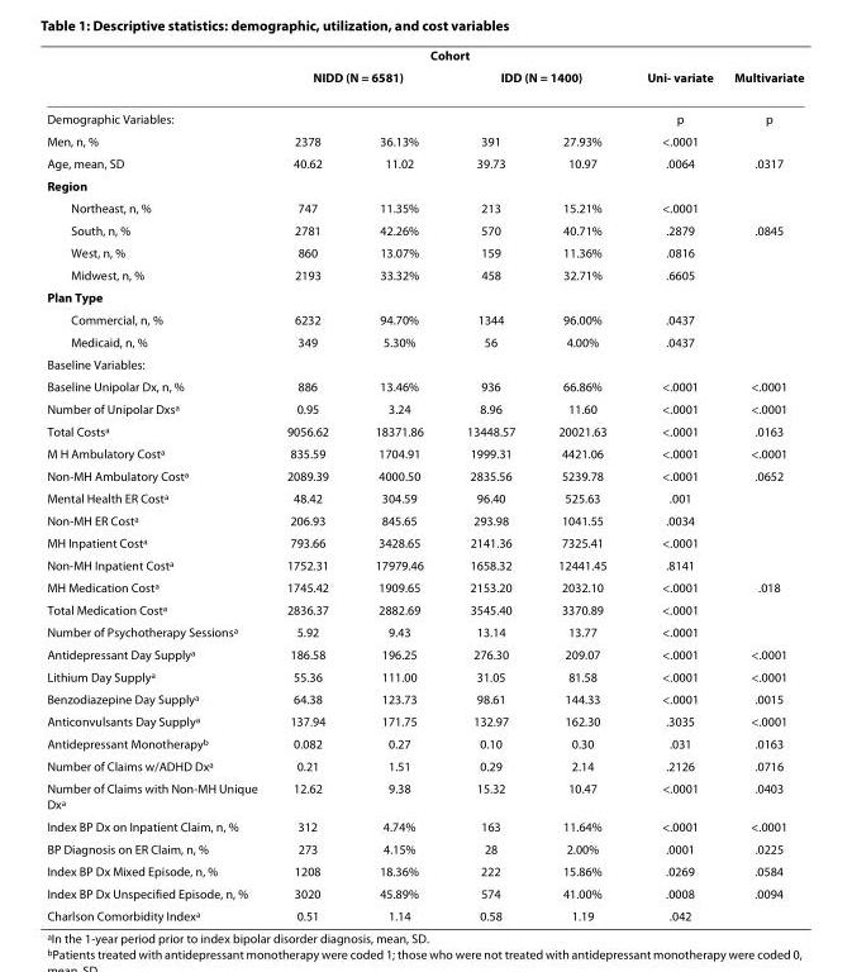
<table><thead><tr><td rowspan="3">Demographic Variables:</td><td colspan="4">Cohort</td><td rowspan="3">Uni- variate p</td><td rowspan="3">Multivariate p</td></tr><tr><td colspan="2">NIDD (N = 6581)</td><td colspan="2">IDD (N = 1400)</td></tr><tr><td></td><td></td><td></td><td></td></tr></thead><tbody><tr><td>Men, n, %</td><td>2378</td><td>36.13%</td><td>391</td><td>27.93%</td><td>&lt;.0001</td><td></td></tr><tr><td>Age, mean, SD</td><td>40.62</td><td>11.02</td><td>39.73</td><td>10.97</td><td>.0064</td><td>.0317</td></tr><tr><td colspan="7">Region</td></tr><tr><td>Northeast, n, %</td><td>747</td><td>11.35%</td><td>213</td><td>15.21%</td><td>&lt;.0001</td><td></td></tr><tr><td>South, n, %</td><td>2781</td><td>42.26%</td><td>570</td><td>40.71%</td><td>.2879</td><td>.0845</td></tr><tr><td>West, n, %</td><td>860</td><td>13.07%</td><td>159</td><td>11.36%</td><td>.0816</td><td></td></tr><tr><td>Midwest, n, %</td><td>2193</td><td>33.32%</td><td>458</td><td>32.71%</td><td>.6605</td><td></td></tr><tr><td colspan="7">Plan Type</td></tr><tr><td>Commercial, n, %</td><td>6232</td><td>94.70%</td><td>1344</td><td>96.00%</td><td>.0437</td><td></td></tr><tr><td>Medicaid, n, %</td><td>349</td><td>5.30%</td><td>56</td><td>4.00%</td><td>.0437</td><td></td></tr><tr><td colspan="7">Baseline Variables:</td></tr><tr><td>Baseline Unipolar Dx, n, %</td><td>886</td><td>13.46%</td><td>936</td><td>66.86%</td><td>&lt;.0001</td><td>&lt;.0001</td></tr><tr><td>Number of Unipolar Dxs<sup>a</sup></td><td>0.95</td><td>3.24</td><td>8.96</td><td>11.60</td><td>&lt;.0001</td><td>&lt;.0001</td></tr><tr><td>Total Costs<sup>a</sup></td><td>9056.62</td><td>18371.86</td><td>13448.57</td><td>20021.63</td><td>&lt;.0001</td><td>.0163</td></tr><tr><td>M H Ambulatory Cost<sup>a</sup></td><td>835.59</td><td>1704.91</td><td>1999.31</td><td>4421.06</td><td>&lt;.0001</td><td>&lt;.0001</td></tr><tr><td>Non-MH Ambulatory Cost<sup>a</sup></td><td>2089.39</td><td>4000.50</td><td>2835.56</td><td>5239.78</td><td>&lt;.0001</td><td>.0652</td></tr><tr><td>Mental Health ER Cost<sup>a</sup></td><td>48.42</td><td>304.59</td><td>96.40</td><td>525.63</td><td>.001</td><td></td></tr><tr><td>Non-MH ER Cost<sup>a</sup></td><td>206.93</td><td>845.65</td><td>293.98</td><td>1041.55</td><td>.0034</td><td></td></tr><tr><td>MH Inpatient Cost<sup>a</sup></td><td>793.66</td><td>3428.65</td><td>2141.36</td><td>7325.41</td><td>&lt;.0001</td><td></td></tr><tr><td>Non-MH Inpatient Cost<sup>a</sup></td><td>1752.31</td><td>17979.46</td><td>1658.32</td><td>12441.45</td><td>.8141</td><td></td></tr><tr><td>MH Medication Cost<sup>a</sup></td><td>1745.42</td><td>1909.65</td><td>2153.20</td><td>2032.10</td><td>&lt;.0001</td><td>.018</td></tr><tr><td>Total Medication Cost<sup>a</sup></td><td>2836.37</td><td>2882.69</td><td>3545.40</td><td>3370.89</td><td>&lt;.0001</td><td></td></tr><tr><td>Number of Psychotherapy Sessions<sup>a</sup></td><td>5.92</td><td>9.43</td><td>13.14</td><td>13.77</td><td>&lt;.0001</td><td></td></tr><tr><td>Antidepressant Day Supply<sup>a</sup></td><td>186.58</td><td>196.25</td><td>276.30</td><td>209.07</td><td>&lt;.0001</td><td>&lt;.0001</td></tr><tr><td>Lithium Day Supply<sup>a</sup></td><td>55.36</td><td>111.00</td><td>31.05</td><td>81.58</td><td>&lt;.0001</td><td>&lt;.0001</td></tr><tr><td>Benzodiazepine Day Supply<sup>a</sup></td><td>64.38</td><td>123.73</td><td>98.61</td><td>144.33</td><td>&lt;.0001</td><td>.0015</td></tr><tr><td>Anticonvulsants Day Supply<sup>a</sup></td><td>137.94</td><td>171.75</td><td>132.97</td><td>162.30</td><td>.3035</td><td>&lt;.0001</td></tr><tr><td>Antidepressant Monotherapy<sup>b</sup></td><td>0.082</td><td>0.27</td><td>0.10</td><td>0.30</td><td>.031</td><td>.0163</td></tr><tr><td>Number of Claims w/ADHD Dx<sup>a</sup></td><td>0.21</td><td>1.51</td><td>0.29</td><td>2.14</td><td>.2126</td><td>.0716</td></tr><tr><td>Number of Claims with Non-MH Unique Dx<sup>a</sup></td><td>12.62</td><td>9.38</td><td>15.32</td><td>10.47</td><td>&lt;.0001</td><td>.0403</td></tr><tr><td>Index BP Dx on Inpatient Claim, n, %</td><td>312</td><td>4.74%</td><td>163</td><td>11.64%</td><td>&lt;.0001</td><td>&lt;.0001</td></tr><tr><td>BP Diagnosis on ER Claim, n, %</td><td>273</td><td>4.15%</td><td>28</td><td>2.00%</td><td>.0001</td><td>.0225</td></tr><tr><td>Index BP Dx Mixed Episode, n, %</td><td>1208</td><td>18.36%</td><td>222</td><td>15.86%</td><td>.0269</td><td>.0584</td></tr><tr><td>Index BP Dx Unspecified Episode, n, %</td><td>3020</td><td>45.89%</td><td>574</td><td>41.00%</td><td>.0008</td><td>.0094</td></tr><tr><td>Charlson Comorbidity Index<sup>a</sup></td><td>0.51</td><td>1.14</td><td>0.58</td><td>1.19</td><td>.042</td><td></td></tr></tbody></table>